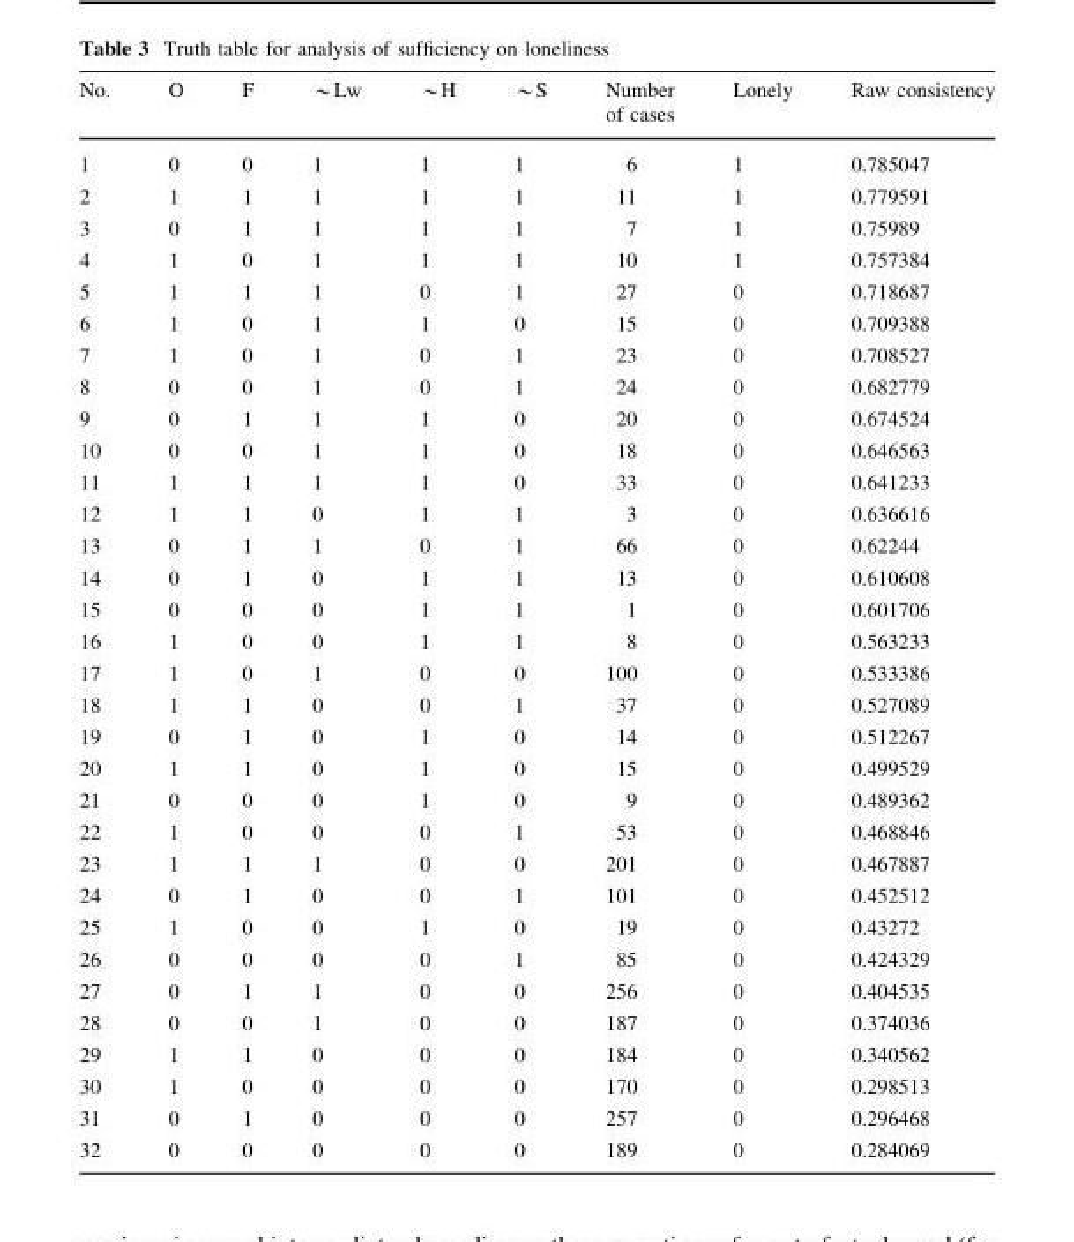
<table><thead><tr><td>No.</td><td>O</td><td>F</td><td>*Lw</td><td>*H</td><td>*S</td><td>Number of cases</td><td>Lonely</td><td>Raw consistency</td></tr></thead><tbody><tr><td>1</td><td>0</td><td>0</td><td>1</td><td>1</td><td>1</td><td>6</td><td>1</td><td>0.785047</td></tr><tr><td>2</td><td>1</td><td>1</td><td>1</td><td>1</td><td>1</td><td>11</td><td>1</td><td>0.779591</td></tr><tr><td>3</td><td>0</td><td>1</td><td>1</td><td>1</td><td>1</td><td>7</td><td>1</td><td>0.75989</td></tr><tr><td>4</td><td>1</td><td>0</td><td>1</td><td>1</td><td>1</td><td>10</td><td>1</td><td>0.757384</td></tr><tr><td>5</td><td>1</td><td>1</td><td>1</td><td>0</td><td>1</td><td>27</td><td>0</td><td>0.718687</td></tr><tr><td>6</td><td>1</td><td>0</td><td>1</td><td>1</td><td>0</td><td>15</td><td>0</td><td>0.709388</td></tr><tr><td>7</td><td>1</td><td>0</td><td>1</td><td>0</td><td>1</td><td>23</td><td>0</td><td>0.708527</td></tr><tr><td>8</td><td>0</td><td>0</td><td>1</td><td>0</td><td>1</td><td>24</td><td>0</td><td>0.682779</td></tr><tr><td>9</td><td>0</td><td>1</td><td>1</td><td>1</td><td>0</td><td>20</td><td>0</td><td>0.674524</td></tr><tr><td>10</td><td>0</td><td>0</td><td>1</td><td>1</td><td>0</td><td>18</td><td>0</td><td>0.646563</td></tr><tr><td>11</td><td>1</td><td>1</td><td>1</td><td>1</td><td>0</td><td>33</td><td>0</td><td>0.641233</td></tr><tr><td>12</td><td>1</td><td>1</td><td>0</td><td>1</td><td>1</td><td>3</td><td>0</td><td>0.636616</td></tr><tr><td>13</td><td>0</td><td>1</td><td>1</td><td>0</td><td>1</td><td>66</td><td>0</td><td>0.62244</td></tr><tr><td>14</td><td>0</td><td>1</td><td>0</td><td>1</td><td>1</td><td>13</td><td>0</td><td>0.610608</td></tr><tr><td>15</td><td>0</td><td>0</td><td>0</td><td>1</td><td>1</td><td>1</td><td>0</td><td>0.601706</td></tr><tr><td>16</td><td>1</td><td>0</td><td>0</td><td>1</td><td>1</td><td>8</td><td>0</td><td>0.563233</td></tr><tr><td>17</td><td>1</td><td>0</td><td>1</td><td>0</td><td>0</td><td>100</td><td>0</td><td>0.533386</td></tr><tr><td>18</td><td>1</td><td>1</td><td>0</td><td>0</td><td>1</td><td>37</td><td>0</td><td>0.527089</td></tr><tr><td>19</td><td>0</td><td>1</td><td>0</td><td>1</td><td>0</td><td>14</td><td>0</td><td>0.512267</td></tr><tr><td>20</td><td>1</td><td>1</td><td>0</td><td>1</td><td>0</td><td>15</td><td>0</td><td>0.499529</td></tr><tr><td>21</td><td>0</td><td>0</td><td>0</td><td>1</td><td>0</td><td>9</td><td>0</td><td>0.489362</td></tr><tr><td>22</td><td>1</td><td>0</td><td>0</td><td>0</td><td>1</td><td>53</td><td>0</td><td>0.468846</td></tr><tr><td>23</td><td>1</td><td>1</td><td>1</td><td>0</td><td>0</td><td>201</td><td>0</td><td>0.467887</td></tr><tr><td>24</td><td>0</td><td>1</td><td>0</td><td>0</td><td>1</td><td>101</td><td>0</td><td>0.452512</td></tr><tr><td>25</td><td>1</td><td>0</td><td>0</td><td>1</td><td>0</td><td>19</td><td>0</td><td>0.43272</td></tr><tr><td>26</td><td>0</td><td>0</td><td>0</td><td>0</td><td>1</td><td>85</td><td>0</td><td>0.424329</td></tr><tr><td>27</td><td>0</td><td>1</td><td>1</td><td>0</td><td>0</td><td>256</td><td>0</td><td>0.404535</td></tr><tr><td>28</td><td>0</td><td>0</td><td>1</td><td>0</td><td>0</td><td>187</td><td>0</td><td>0.374036</td></tr><tr><td>29</td><td>1</td><td>1</td><td>0</td><td>0</td><td>0</td><td>184</td><td>0</td><td>0.340562</td></tr><tr><td>30</td><td>1</td><td>0</td><td>0</td><td>0</td><td>0</td><td>170</td><td>0</td><td>0.298513</td></tr><tr><td>31</td><td>0</td><td>1</td><td>0</td><td>0</td><td>0</td><td>257</td><td>0</td><td>0.296468</td></tr><tr><td>32</td><td>0</td><td>0</td><td>0</td><td>0</td><td>0</td><td>189</td><td>0</td><td>0.284069</td></tr></tbody></table>